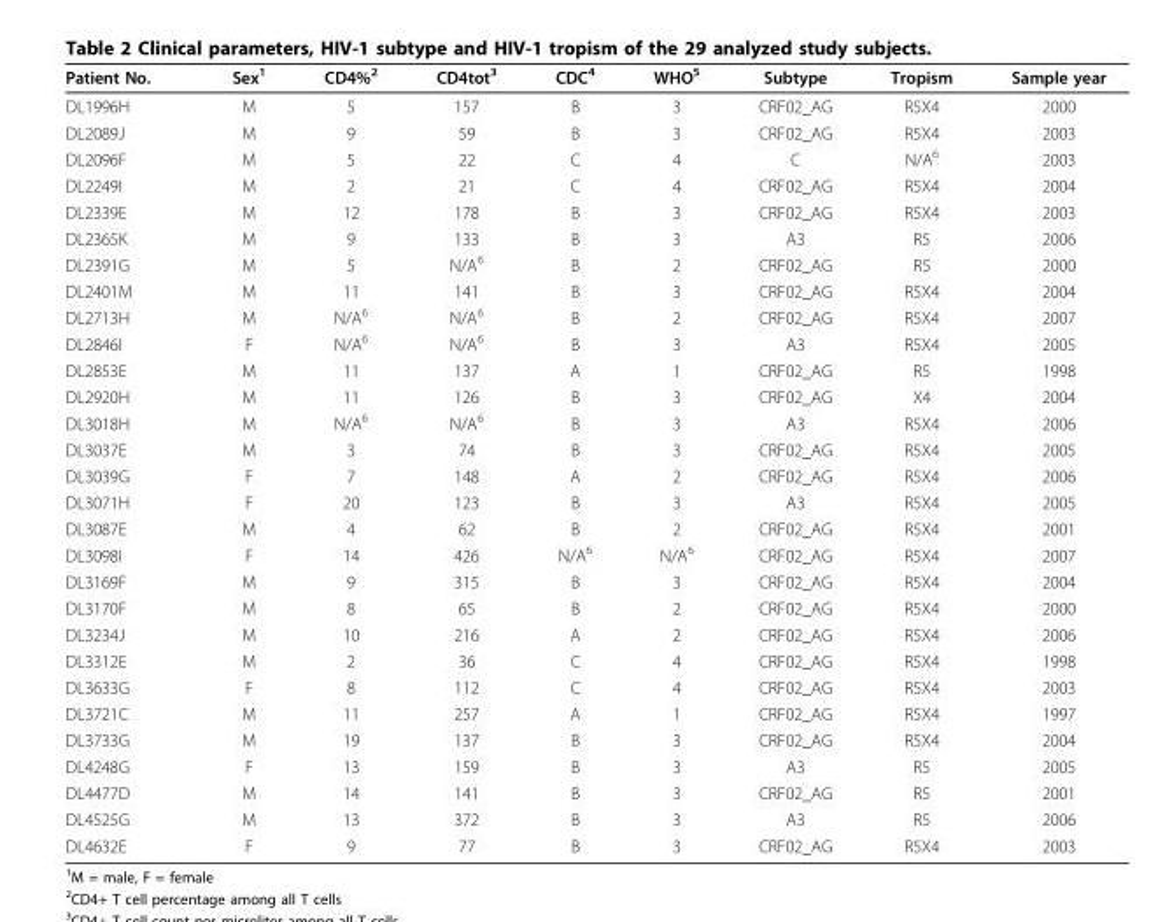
<table><thead><tr><td>Patient No.</td><td>Sex<sup>1</sup></td><td>CD4%<sup>2</sup></td><td>CD4tot<sup>3</sup></td><td>CDC<sup>4</sup></td><td>WHO<sup>5</sup></td><td>Subtype</td><td>Tropism</td><td>Sample year</td></tr></thead><tbody><tr><td>DL1996H</td><td>M</td><td>5</td><td>157</td><td>B</td><td>3</td><td>CRF02_AG</td><td>R5X4</td><td>2000</td></tr><tr><td>DL2089J</td><td>M</td><td>9</td><td>59</td><td>B</td><td>3</td><td>CRF02_AG</td><td>R5X4</td><td>2003</td></tr><tr><td>DL2096F</td><td>M</td><td>5</td><td>22</td><td>C</td><td>4</td><td>C</td><td>N/A<sup>6</sup></td><td>2003</td></tr><tr><td>DL2249I</td><td>M</td><td>2</td><td>21</td><td>C</td><td>4</td><td>CRF02_AG</td><td>R5X4</td><td>2004</td></tr><tr><td>DL2339E</td><td>M</td><td>12</td><td>178</td><td>B</td><td>3</td><td>CRF02_AG</td><td>R5X4</td><td>2003</td></tr><tr><td>DL2365K</td><td>M</td><td>9</td><td>133</td><td>B</td><td>3</td><td>A3</td><td>R5</td><td>2006</td></tr><tr><td>DL2391G</td><td>M</td><td>5</td><td>N/A<sup>6</sup></td><td>B</td><td>2</td><td>CRF02_AG</td><td>R5</td><td>2000</td></tr><tr><td>DL2401M</td><td>M</td><td>11</td><td>141</td><td>B</td><td>3</td><td>CRF02_AG</td><td>R5X4</td><td>2004</td></tr><tr><td>DL2713H</td><td>M</td><td>N/A<sup>6</sup></td><td>N/A<sup>6</sup></td><td>B</td><td>2</td><td>CRF02_AG</td><td>R5X4</td><td>2007</td></tr><tr><td>DL2846I</td><td>F</td><td>N/A<sup>6</sup></td><td>N/A<sup>6</sup></td><td>B</td><td>3</td><td>A3</td><td>R5X4</td><td>2005</td></tr><tr><td>DL2853E</td><td>M</td><td>11</td><td>137</td><td>A</td><td>1</td><td>CRF02_AG</td><td>R5</td><td>1998</td></tr><tr><td>DL2920H</td><td>M</td><td>11</td><td>126</td><td>B</td><td>3</td><td>CRF02_AG</td><td>X4</td><td>2004</td></tr><tr><td>DL3018H</td><td>M</td><td>N/A<sup>6</sup></td><td>N/A<sup>6</sup></td><td>B</td><td>3</td><td>A3</td><td>R5X4</td><td>2006</td></tr><tr><td>DL3037E</td><td>M</td><td>3</td><td>74</td><td>B</td><td>3</td><td>CRF02_AG</td><td>R5X4</td><td>2005</td></tr><tr><td>DL3039G</td><td>F</td><td>7</td><td>148</td><td>A</td><td>2</td><td>CRF02_AG</td><td>R5X4</td><td>2006</td></tr><tr><td>DL3071H</td><td>F</td><td>20</td><td>123</td><td>B</td><td>3</td><td>A3</td><td>R5X4</td><td>2005</td></tr><tr><td>DL3087E</td><td>M</td><td>4</td><td>62</td><td>B</td><td>2</td><td>CRF02_AG</td><td>R5X4</td><td>2001</td></tr><tr><td>DL3098I</td><td>F</td><td>14</td><td>426</td><td>N/A<sup>6</sup></td><td>N/A<sup>6</sup></td><td>CRF02_AG</td><td>R5X4</td><td>2007</td></tr><tr><td>DL3169F</td><td>M</td><td>9</td><td>315</td><td>B</td><td>3</td><td>CRF02_AG</td><td>R5X4</td><td>2004</td></tr><tr><td>DL3170F</td><td>M</td><td>8</td><td>65</td><td>B</td><td>2</td><td>CRF02_AG</td><td>R5X4</td><td>2000</td></tr><tr><td>DL3234J</td><td>M</td><td>10</td><td>216</td><td>A</td><td>2</td><td>CRF02_AG</td><td>R5X4</td><td>2006</td></tr><tr><td>DL3312E</td><td>M</td><td>2</td><td>36</td><td>C</td><td>4</td><td>CRF02_AG</td><td>R5X4</td><td>1998</td></tr><tr><td>DL3633G</td><td>F</td><td>8</td><td>112</td><td>C</td><td>4</td><td>CRF02_AG</td><td>R5X4</td><td>2003</td></tr><tr><td>DL3721C</td><td>M</td><td>11</td><td>257</td><td>A</td><td>1</td><td>CRF02_AG</td><td>R5X4</td><td>1997</td></tr><tr><td>DL3733G</td><td>M</td><td>19</td><td>137</td><td>B</td><td>3</td><td>CRF02_AG</td><td>R5X4</td><td>2004</td></tr><tr><td>DL4248G</td><td>F</td><td>13</td><td>159</td><td>B</td><td>3</td><td>A3</td><td>R5</td><td>2005</td></tr><tr><td>DL4477D</td><td>M</td><td>14</td><td>141</td><td>B</td><td>3</td><td>CRF02_AG</td><td>R5</td><td>2001</td></tr><tr><td>DL4525G</td><td>M</td><td>13</td><td>372</td><td>B</td><td>3</td><td>A3</td><td>R5</td><td>2006</td></tr><tr><td>DL4632E</td><td>F</td><td>9</td><td>77</td><td>B</td><td>3</td><td>CRF02_AG</td><td>R5X4</td><td>2003</td></tr></tbody></table>